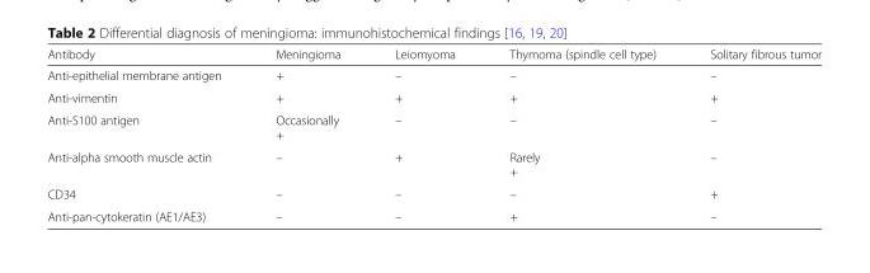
<table><thead><tr><td>Antibody</td><td>Meningioma</td><td>Leiomyoma</td><td>Thymoma (spindle cell type)</td><td>Solitary fibrous tumor</td></tr></thead><tbody><tr><td>Anti-epithelial membrane antigen</td><td>+</td><td>–</td><td>–</td><td>–</td></tr><tr><td>Anti-vimentin</td><td>+</td><td>+</td><td>+</td><td>+</td></tr><tr><td>Anti-S100 antigen</td><td>Occasionally +</td><td>–</td><td>–</td><td>–</td></tr><tr><td>Anti-alpha smooth muscle actin</td><td>–</td><td>+</td><td>Rarely +</td><td>–</td></tr><tr><td>CD34</td><td>–</td><td>–</td><td>–</td><td>+</td></tr><tr><td>Anti-pan-cytokeratin (AE1/AE3)</td><td>–</td><td>–</td><td>+</td><td>–</td></tr></tbody></table>